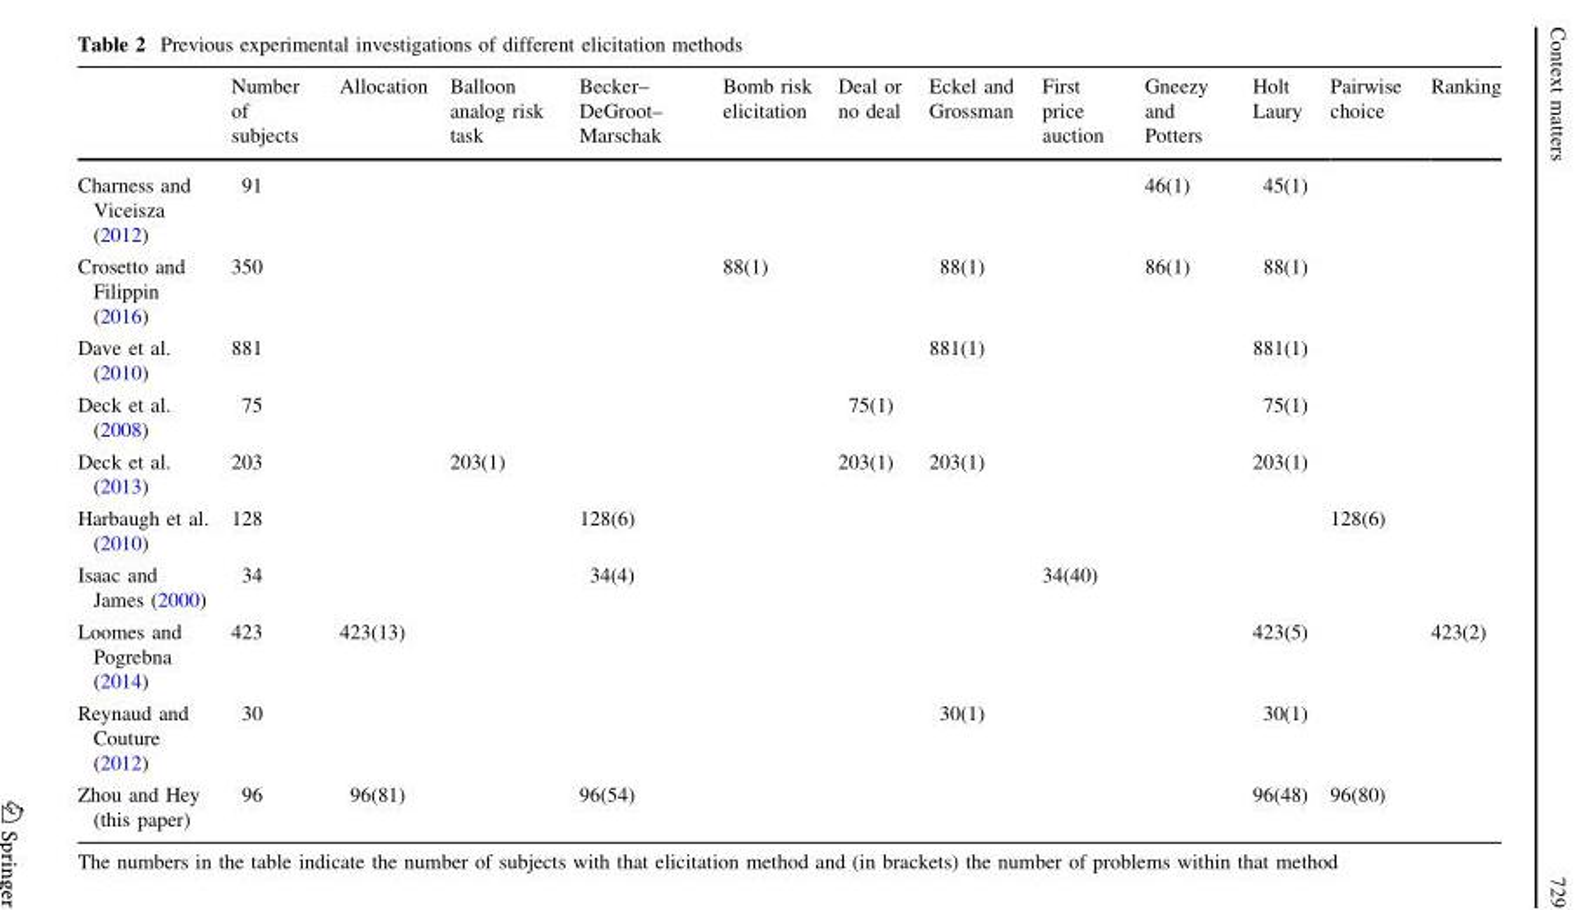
<table><thead><tr><td></td><td>Number of subjects</td><td>Allocation</td><td>Balloon analog risk task</td><td>Becker– DeGroot– Marschak</td><td>Bomb risk elicitation</td><td>Deal or no deal</td><td>Eckel and Grossman</td><td>First price auction</td><td>Gneezy and Potters</td><td>Holt Laury</td><td>Pairwise choice</td><td>Ranking</td></tr></thead><tbody><tr><td>Charness and Viceisza (2012)</td><td>91</td><td></td><td></td><td></td><td></td><td></td><td></td><td></td><td>46(1)</td><td>45(1)</td><td></td><td></td></tr><tr><td>Crosetto and Filippin (2016)</td><td>350</td><td></td><td></td><td></td><td>88(1)</td><td></td><td>88(1)</td><td></td><td>86(1)</td><td>88(1)</td><td></td><td></td></tr><tr><td>Dave et al. (2010)</td><td>881</td><td></td><td></td><td></td><td></td><td></td><td>881(1)</td><td></td><td></td><td>881(1)</td><td></td><td></td></tr><tr><td>Deck et al. (2008)</td><td>75</td><td></td><td></td><td></td><td></td><td>75(1)</td><td></td><td></td><td></td><td>75(1)</td><td></td><td></td></tr><tr><td>Deck et al. (2013)</td><td>203</td><td></td><td>203(1)</td><td></td><td></td><td>203(1)</td><td>203(1)</td><td></td><td></td><td>203(1)</td><td></td><td></td></tr><tr><td>Harbaugh et al. (2010)</td><td>128</td><td></td><td></td><td>128(6)</td><td></td><td></td><td></td><td></td><td></td><td></td><td>128(6)</td><td></td></tr><tr><td>Isaac and James (2000)</td><td>34</td><td></td><td></td><td>34(4)</td><td></td><td></td><td></td><td>34(40)</td><td></td><td></td><td></td><td></td></tr><tr><td>Loomes and Pogrebna (2014)</td><td>423</td><td>423(13)</td><td></td><td></td><td></td><td></td><td></td><td></td><td></td><td>423(5)</td><td></td><td>423(2)</td></tr><tr><td>Reynaud and Couture (2012)</td><td>30</td><td></td><td></td><td></td><td></td><td></td><td>30(1)</td><td></td><td></td><td>30(1)</td><td></td><td></td></tr><tr><td>Zhou and Hey (this paper)</td><td>96</td><td>96(81)</td><td></td><td>96(54)</td><td></td><td></td><td></td><td></td><td></td><td>96(48)</td><td>96(80)</td><td></td></tr></tbody></table>